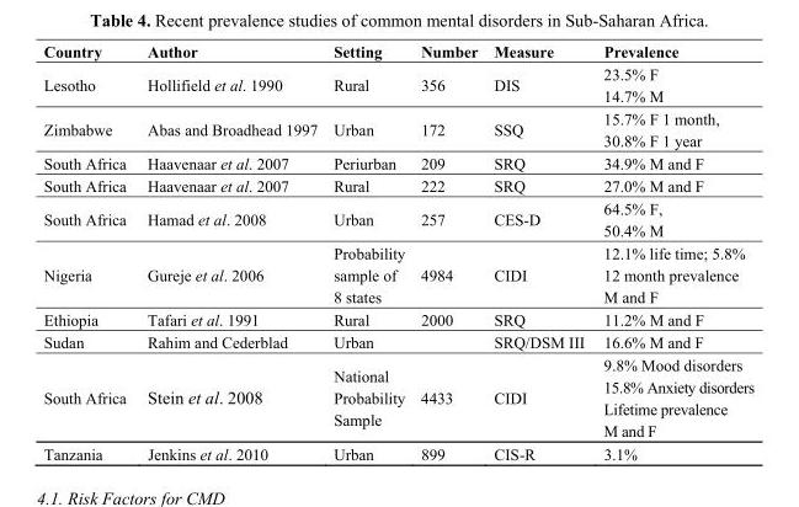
<table><thead><tr><td>Country</td><td>Author</td><td>Setting</td><td>Number</td><td>Measure</td><td>Prevalence</td></tr></thead><tbody><tr><td rowspan="2">Lesotho</td><td rowspan="2">Hollifield et al. 1990</td><td rowspan="2">Rural</td><td rowspan="2">356</td><td rowspan="2">DIS</td><td>23.5% F</td></tr><tr><td>14.7% M</td></tr><tr><td>Zimbabwe</td><td>Abas and Broadhead 1997</td><td>Urban</td><td>172</td><td>SSQ</td><td>15.7% F 1 month, 30.8% F 1 year</td></tr><tr><td>South Africa</td><td>Haavenaar et al. 2007</td><td>Periurban</td><td>209</td><td>SRQ</td><td>34.9% M and F</td></tr><tr><td>South Africa</td><td>Haavenaar et al. 2007</td><td>Rural</td><td>222</td><td>SRQ</td><td>27.0% M and F</td></tr><tr><td>South Africa</td><td>Hamad et al. 2008</td><td>Urban</td><td>257</td><td>CES-D</td><td>64.5% F, 50.4% M</td></tr><tr><td rowspan="2">Nigeria</td><td rowspan="2">Gureje et al. 2006</td><td rowspan="2">Probability sample of 8 states</td><td rowspan="2">4984</td><td rowspan="2">CIDI</td><td>12.1% life time; 5.8% 12 month prevalence</td></tr><tr><td>M and F</td></tr><tr><td>Ethiopia</td><td>Tafari et al. 1991</td><td>Rural</td><td>2000</td><td>SRQ</td><td>11.2% M and F</td></tr><tr><td>Sudan</td><td>Rahim and Cederblad</td><td>Urban</td><td></td><td>SRQ/DSM III</td><td>16.6% M and F</td></tr><tr><td rowspan="4">South Africa</td><td rowspan="4">Stein et al. 2008</td><td rowspan="4">National Probability Sample</td><td rowspan="4">4433</td><td rowspan="4">CIDI</td><td>9.8% Mood disorders</td></tr><tr><td>15.8% Anxiety disorders</td></tr><tr><td>Lifetime prevalence</td></tr><tr><td>M and F</td></tr><tr><td>Tanzania</td><td>Jenkins et al. 2010</td><td>Urban</td><td>899</td><td>CIS-R</td><td>3.1%</td></tr></tbody></table>